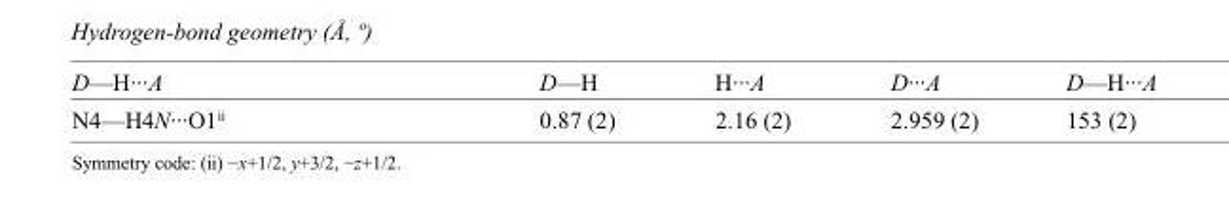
<table><tbody><tr><td>D—H···A</td><td>D—H</td><td>H···A</td><td>D···A</td><td>D—H···A</td></tr><tr><td>N4—H4N···O1<sup>ii</sup></td><td>0.87 (2)</td><td>2.16 (2)</td><td>2.959 (2)</td><td>153 (2)</td></tr></tbody></table>